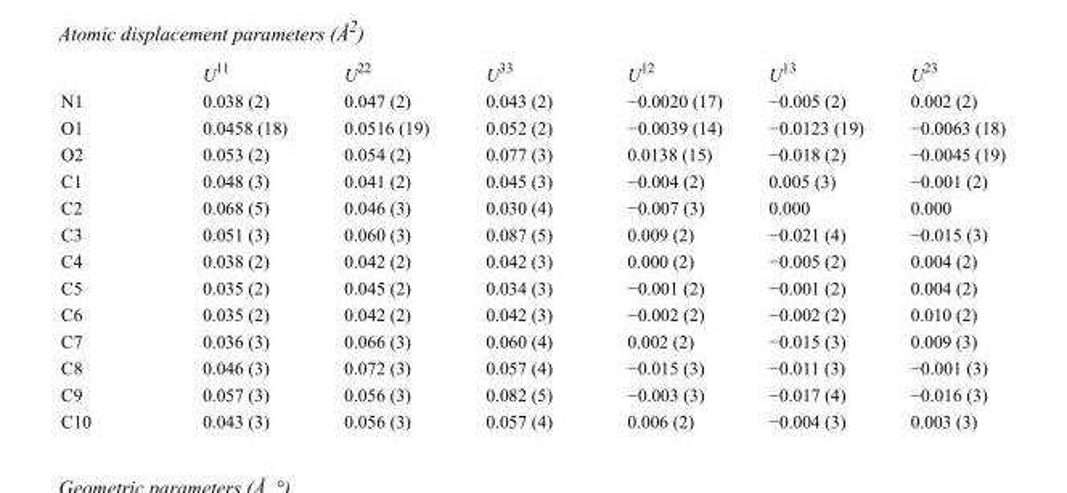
<table><thead><tr><td></td><td>U<sup>11</sup></td><td>U<sup>22</sup></td><td>U<sup>33</sup></td><td>U<sup>12</sup></td><td>U<sup>13</sup></td><td>U<sup>23</sup></td></tr></thead><tbody><tr><td>N1</td><td>0.038 (2)</td><td>0.047 (2)</td><td>0.043 (2)</td><td>−0.0020 (17)</td><td>−0.005 (2)</td><td>0.002 (2)</td></tr><tr><td>O1</td><td>0.0458 (18)</td><td>0.0516 (19)</td><td>0.052 (2)</td><td>−0.0039 (14)</td><td>−0.0123 (19)</td><td>−0.0063 (18)</td></tr><tr><td>O2</td><td>0.053 (2)</td><td>0.054 (2)</td><td>0.077 (3)</td><td>0.0138 (15)</td><td>−0.018 (2)</td><td>−0.0045 (19)</td></tr><tr><td>C1</td><td>0.048 (3)</td><td>0.041 (2)</td><td>0.045 (3)</td><td>−0.004 (2)</td><td>0.005 (3)</td><td>−0.001 (2)</td></tr><tr><td>C2</td><td>0.068 (5)</td><td>0.046 (3)</td><td>0.030 (4)</td><td>−0.007 (3)</td><td>0.000</td><td>0.000</td></tr><tr><td>C3</td><td>0.051 (3)</td><td>0.060 (3)</td><td>0.087 (5)</td><td>0.009 (2)</td><td>−0.021 (4)</td><td>−0.015 (3)</td></tr><tr><td>C4</td><td>0.038 (2)</td><td>0.042 (2)</td><td>0.042 (3)</td><td>0.000 (2)</td><td>−0.005 (2)</td><td>0.004 (2)</td></tr><tr><td>C5</td><td>0.035 (2)</td><td>0.045 (2)</td><td>0.034 (3)</td><td>−0.001 (2)</td><td>−0.001 (2)</td><td>0.004 (2)</td></tr><tr><td>C6</td><td>0.035 (2)</td><td>0.042 (2)</td><td>0.042 (3)</td><td>−0.002 (2)</td><td>−0.002 (2)</td><td>0.010 (2)</td></tr><tr><td>C7</td><td>0.036 (3)</td><td>0.066 (3)</td><td>0.060 (4)</td><td>0.002 (2)</td><td>−0.015 (3)</td><td>0.009 (3)</td></tr><tr><td>C8</td><td>0.046 (3)</td><td>0.072 (3)</td><td>0.057 (4)</td><td>−0.015 (3)</td><td>−0.011 (3)</td><td>−0.001 (3)</td></tr><tr><td>C9</td><td>0.057 (3)</td><td>0.056 (3)</td><td>0.082 (5)</td><td>−0.003 (3)</td><td>−0.017 (4)</td><td>−0.016 (3)</td></tr><tr><td>C10</td><td>0.043 (3)</td><td>0.056 (3)</td><td>0.057 (4)</td><td>0.006 (2)</td><td>−0.004 (3)</td><td>0.003 (3)</td></tr></tbody></table>